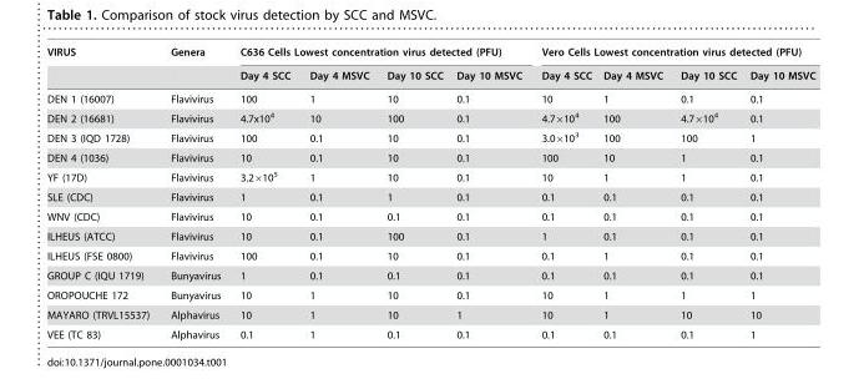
<table><thead><tr><td rowspan="2">VIRUS</td><td rowspan="2">Genera</td><td colspan="4">C636 Cells Lowest concentration virus detected (PFU)</td><td colspan="4">Vero Cells Lowest concentration virus detected (PFU)</td></tr><tr><td>Day 4 SCC</td><td>Day 4 MSVC</td><td>Day 10 SCC</td><td>Day 10 MSVC</td><td>Day 4 SCC</td><td>Day 4 MSVC</td><td>Day 10 SCC</td><td>Day 10 MSVC</td></tr></thead><tbody><tr><td>DEN 1 (16007)</td><td>Flavivirus</td><td>100</td><td>1</td><td>10</td><td>0.1</td><td>10</td><td>1</td><td>0.1</td><td>0.1</td></tr><tr><td>DEN 2 (16681)</td><td>Flavivirus</td><td>4.7x10<sup>4</sup></td><td>10</td><td>100</td><td>0.1</td><td>4.7×10<sup>4</sup></td><td>100</td><td>4.7×10<sup>4</sup></td><td>0.1</td></tr><tr><td>DEN 3 (IQD 1728)</td><td>Flavivirus</td><td>100</td><td>0.1</td><td>10</td><td>0.1</td><td>3.0×10<sup>3</sup></td><td>100</td><td>100</td><td>1</td></tr><tr><td>DEN 4 (1036)</td><td>Flavivirus</td><td>10</td><td>0.1</td><td>10</td><td>0.1</td><td>100</td><td>10</td><td>1</td><td>0.1</td></tr><tr><td>YF (17D)</td><td>Flavivirus</td><td>3.2×10<sup>5</sup></td><td>1</td><td>10</td><td>0.1</td><td>10</td><td>1</td><td>1</td><td>0.1</td></tr><tr><td>SLE (CDC)</td><td>Flavivirus</td><td>1</td><td>0.1</td><td>1</td><td>0.1</td><td>0.1</td><td>0.1</td><td>0.1</td><td>0.1</td></tr><tr><td>WNV (CDC)</td><td>Flavivirus</td><td>10</td><td>0.1</td><td>0.1</td><td>0.1</td><td>0.1</td><td>0.1</td><td>0.1</td><td>0.1</td></tr><tr><td>ILHEUS (ATCC)</td><td>Flavivirus</td><td>10</td><td>0.1</td><td>100</td><td>0.1</td><td>1</td><td>0.1</td><td>0.1</td><td>0.1</td></tr><tr><td>ILHEUS (FSE 0800)</td><td>Flavivirus</td><td>100</td><td>0.1</td><td>10</td><td>0.1</td><td>0.1</td><td>1</td><td>0.1</td><td>0.1</td></tr><tr><td>GROUP C (IQU 1719)</td><td>Bunyavirus</td><td>1</td><td>0.1</td><td>0.1</td><td>0.1</td><td>0.1</td><td>0.1</td><td>0.1</td><td>0.1</td></tr><tr><td>OROPOUCHE 172</td><td>Bunyavirus</td><td>10</td><td>1</td><td>10</td><td>0.1</td><td>10</td><td>1</td><td>1</td><td>1</td></tr><tr><td>MAYARO (TRVL15537)</td><td>Alphavirus</td><td>10</td><td>1</td><td>10</td><td>1</td><td>10</td><td>1</td><td>10</td><td>10</td></tr><tr><td>VEE (TC 83)</td><td>Alphavirus</td><td>0.1</td><td>1</td><td>0.1</td><td>0.1</td><td>0.1</td><td>0.1</td><td>0.1</td><td>1</td></tr></tbody></table>